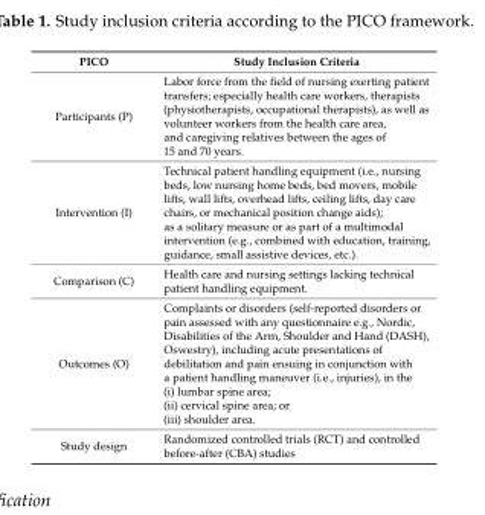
<table><thead><tr><td>PICO</td><td>Study Inclusion Criteria</td></tr></thead><tbody><tr><td>Participants (P)</td><td>Labor force from the field of nursing exerting patient transfers; especially health care workers, therapists (physiotherapists, occupational therapists), as well as volunteer workers from the health care area, and caregiving relatives between the ages of 15 and 70 years.</td></tr><tr><td>Intervention (I)</td><td>Technical patient handling equipment (i.e., nursing beds, low nursing home beds, bed movers, mobile lifts, wall lifts, overhead lifts, ceiling lifts, day care chairs, or mechanical position change aids); as a solitary measure or as part of a multimodal intervention (e.g., combined with education, training, guidance, small assistive devices, etc.).</td></tr><tr><td>Comparison (C)</td><td>Health care and nursing settings lacking technical patient handling equipment.</td></tr><tr><td>Outcomes (O)</td><td>Complaints or disorders (self-reported disorders or pain assessed with any questionnaire e.g., Nordic, Disabilities of the Arm, Shoulder and Hand (DASH), Oswestry), including acute presentations of debilitation and pain ensuing in conjunction with a patient handling maneuver (i.e., injuries), in the (i) lumbar spine area; (ii) cervical spine area; or (iii) shoulder area.</td></tr><tr><td>Study design</td><td>Randomized controlled trials (RCT) and controlled before-after (CBA) studies</td></tr></tbody></table>